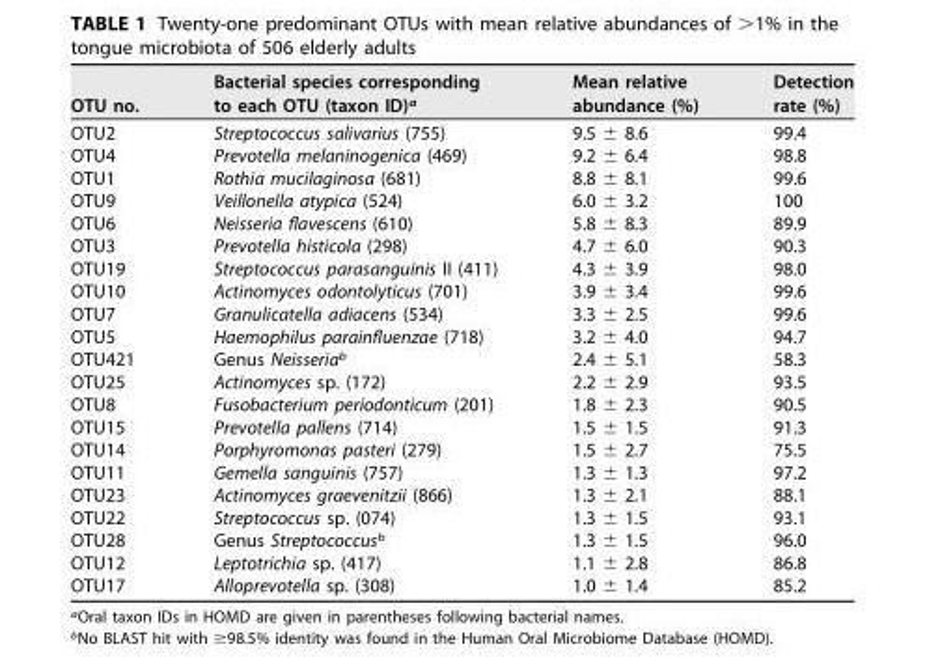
<table><thead><tr><td>OTU no.</td><td>Bacterial species corresponding to each OTU (taxon ID)<sup>a</sup></td><td>Mean relative abundance (%)</td><td>Detection rate (%)</td></tr></thead><tbody><tr><td>OTU2</td><td>Streptococcus salivarius (755)</td><td>9.5 ± 8.6</td><td>99.4</td></tr><tr><td>OTU4</td><td>Prevotella melaninogenica (469)</td><td>9.2 ± 6.4</td><td>98.8</td></tr><tr><td>OTU1</td><td>Rothia mucilaginosa (681)</td><td>8.8 ± 8.1</td><td>99.6</td></tr><tr><td>OTU9</td><td>Veillonella atypica (524)</td><td>6.0 ± 3.2</td><td>100</td></tr><tr><td>OTU6</td><td>Neisseria flavescens (610)</td><td>5.8 ± 8.3</td><td>89.9</td></tr><tr><td>OTU3</td><td>Prevotella histicola (298)</td><td>4.7 ± 6.0</td><td>90.3</td></tr><tr><td>OTU19</td><td>Streptococcus parasanguinis II (411)</td><td>4.3 ± 3.9</td><td>98.0</td></tr><tr><td>OTU10</td><td>Actinomyces odontolyticus (701)</td><td>3.9 ± 3.4</td><td>99.6</td></tr><tr><td>OTU7</td><td>Granulicatella adiacens (534)</td><td>3.3 ± 2.5</td><td>99.6</td></tr><tr><td>OTU5</td><td>Haemophilus parainfluenzae (718)</td><td>3.2 ± 4.0</td><td>94.7</td></tr><tr><td>OTU421</td><td>Genus Neisseria<sup>b</sup></td><td>2.4 ± 5.1</td><td>58.3</td></tr><tr><td>OTU25</td><td>Actinomyces sp. (172)</td><td>2.2 ± 2.9</td><td>93.5</td></tr><tr><td>OTU8</td><td>Fusobacterium periodonticum (201)</td><td>1.8 ± 2.3</td><td>90.5</td></tr><tr><td>OTU15</td><td>Prevotella pallens (714)</td><td>1.5 ± 1.5</td><td>91.3</td></tr><tr><td>OTU14</td><td>Porphyromonas pasteri (279)</td><td>1.5 ± 2.7</td><td>75.5</td></tr><tr><td>OTU11</td><td>Gemella sanguinis (757)</td><td>1.3 ± 1.3</td><td>97.2</td></tr><tr><td>OTU23</td><td>Actinomyces graevenitzii (866)</td><td>1.3 ± 2.1</td><td>88.1</td></tr><tr><td>OTU22</td><td>Streptococcus sp. (074)</td><td>1.3 ± 1.5</td><td>93.1</td></tr><tr><td>OTU28</td><td>Genus Streptococcus<sup>b</sup></td><td>1.3 ± 1.5</td><td>96.0</td></tr><tr><td>OTU12</td><td>Leptotrichia sp. (417)</td><td>1.1 ± 2.8</td><td>86.8</td></tr><tr><td>OTU17</td><td>Alloprevotella sp. (308)</td><td>1.0 ± 1.4</td><td>85.2</td></tr></tbody></table>